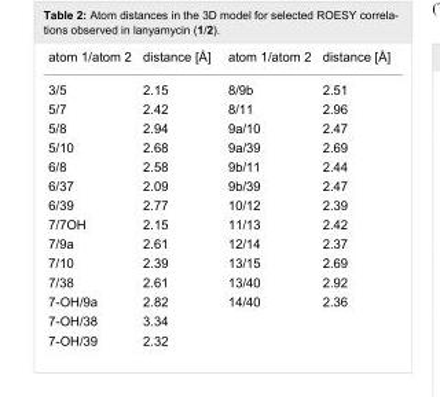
<table><tbody><tr><td>atom 1/atom 2</td><td>distance [Å]</td><td>atom 1/atom 2</td><td>distance [Å]</td></tr><tr><td>3/5</td><td>2.15</td><td>8/9b</td><td>2.51</td></tr><tr><td>5/7</td><td>2.42</td><td>8/11</td><td>2.96</td></tr><tr><td>5/8</td><td>2.94</td><td>9a/10</td><td>2.47</td></tr><tr><td>5/10</td><td>2.68</td><td>9a/39</td><td>2.69</td></tr><tr><td>6/8</td><td>2.58</td><td>9b/11</td><td>2.44</td></tr><tr><td>6/37</td><td>2.09</td><td>9b/39</td><td>2.47</td></tr><tr><td>6/39</td><td>2.77</td><td>10/12</td><td>2.39</td></tr><tr><td>7/7OH</td><td>2.15</td><td>11/13</td><td>2.42</td></tr><tr><td>7/9a</td><td>2.61</td><td>12/14</td><td>2.37</td></tr><tr><td>7/10</td><td>2.39</td><td>13/15</td><td>2.69</td></tr><tr><td>7/38</td><td>2.61</td><td>13/40</td><td>2.92</td></tr><tr><td>7-OH/9a</td><td>2.82</td><td>14/40</td><td>2.36</td></tr><tr><td>7-OH/38</td><td>3.34</td><td></td><td></td></tr><tr><td>7-OH/39</td><td>2.32</td><td></td><td></td></tr></tbody></table>